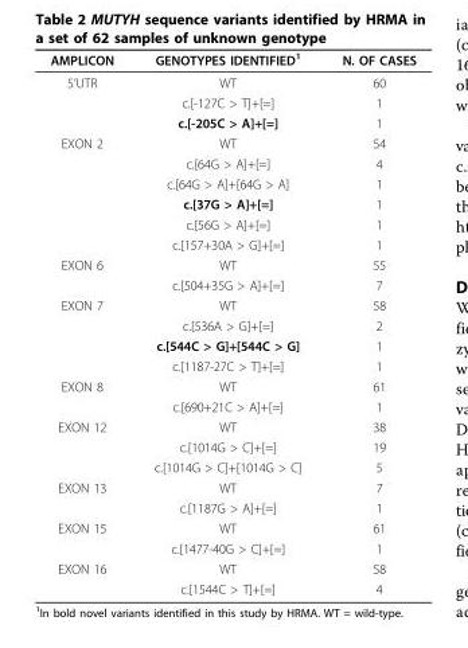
<table><thead><tr><td>AMPLICON</td><td>GENOTYPES IDENTIFIED<sup>1</sup></td><td>N. OF CASES</td></tr></thead><tbody><tr><td rowspan="3">5’UTR</td><td>WT</td><td>60</td></tr><tr><td>c.[-127C &gt; T]+[=]</td><td>1</td></tr><tr><td>c.[-205C &gt; A]+[=]</td><td>1</td></tr><tr><td rowspan="6">EXON 2</td><td>WT</td><td>54</td></tr><tr><td>c.[64G &gt; A]+[=]</td><td>4</td></tr><tr><td>c.[64G &gt; A]+[64G &gt; A]</td><td>1</td></tr><tr><td>c.[37G &gt; A]+[=]</td><td>1</td></tr><tr><td>c.[56G &gt; A]+[=]</td><td>1</td></tr><tr><td>c.[157+30A &gt; G]+[=]</td><td>1</td></tr><tr><td rowspan="2">EXON 6</td><td>WT</td><td>55</td></tr><tr><td>c.[504+35G &gt; A]+[=]</td><td>7</td></tr><tr><td rowspan="4">EXON 7</td><td>WT</td><td>58</td></tr><tr><td>c.[536A &gt; G]+[=]</td><td>2</td></tr><tr><td>c.[544C &gt; G]+[544C &gt; G]</td><td>1</td></tr><tr><td>c.[1187-27C &gt; T]+[=]</td><td>1</td></tr><tr><td rowspan="2">EXON 8</td><td>WT</td><td>61</td></tr><tr><td>c.[690+21C &gt; A]+[=]</td><td>1</td></tr><tr><td rowspan="3">EXON 12</td><td>WT</td><td>38</td></tr><tr><td>c.[1014G &gt; C]+[=]</td><td>19</td></tr><tr><td>c.[1014G &gt; C]+[1014G &gt; C]</td><td>5</td></tr><tr><td rowspan="2">EXON 13</td><td>WT</td><td>7</td></tr><tr><td>c.[1187G &gt; A]+[=]</td><td>1</td></tr><tr><td rowspan="2">EXON 15</td><td>WT</td><td>61</td></tr><tr><td>c.[1477-40G &gt; C]+[=]</td><td>1</td></tr><tr><td rowspan="2">EXON 16</td><td>WT</td><td>58</td></tr><tr><td>c.[1544C &gt; T]+[=]</td><td>4</td></tr></tbody></table>